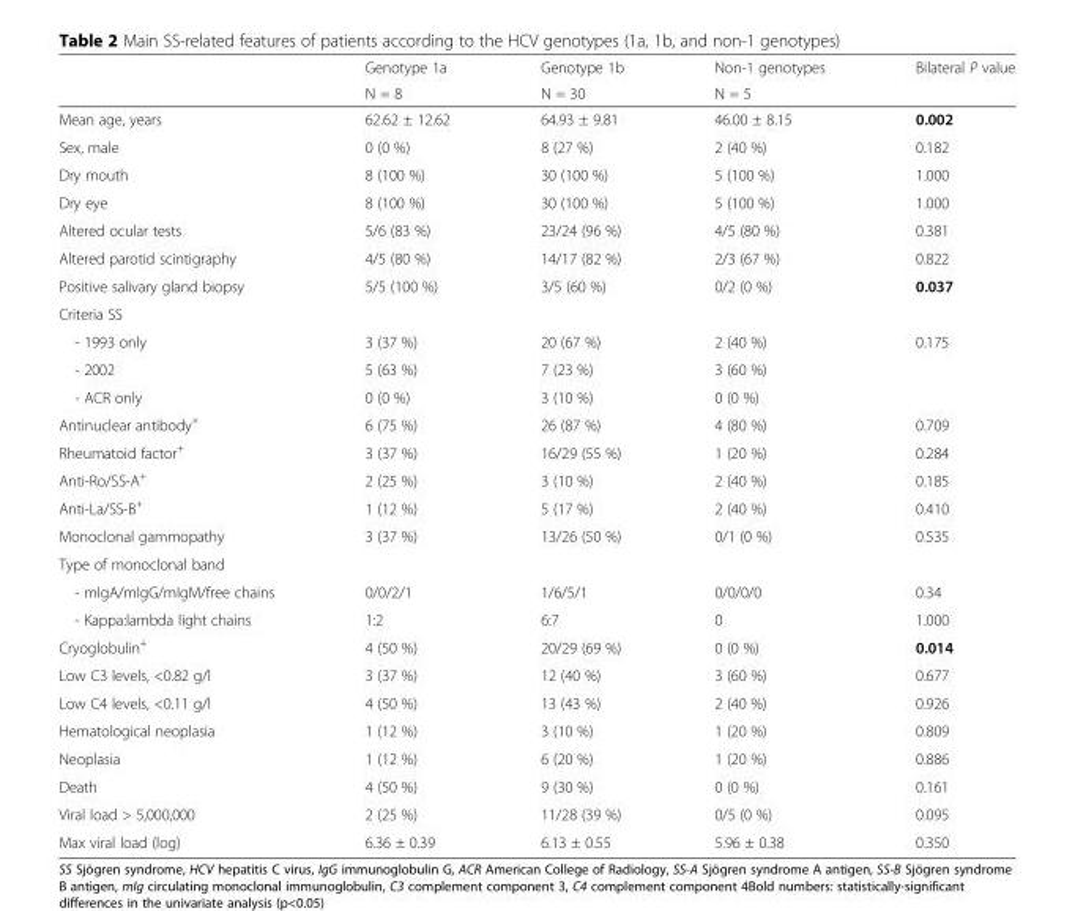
<table><thead><tr><td rowspan="2"></td><td rowspan="2">Genotype 1a N = 8</td><td rowspan="2">Genotype 1b N = 30</td><td rowspan="2">Non-1 genotypes N = 5</td><td rowspan="2">Bilateral P value</td></tr><tr></tr></thead><tbody><tr><td>Mean age, years</td><td>62.62 ± 12.62</td><td>64.93 ± 9.81</td><td>46.00 ± 8.15</td><td>0.002</td></tr><tr><td>Sex, male</td><td>0 (0 %)</td><td>8 (27 %)</td><td>2 (40 %)</td><td>0.182</td></tr><tr><td>Dry mouth</td><td>8 (100 %)</td><td>30 (100 %)</td><td>5 (100 %)</td><td>1.000</td></tr><tr><td>Dry eye</td><td>8 (100 %)</td><td>30 (100 %)</td><td>5 (100 %)</td><td>1.000</td></tr><tr><td>Altered ocular tests</td><td>5/6 (83 %)</td><td>23/24 (96 %)</td><td>4/5 (80 %)</td><td>0.381</td></tr><tr><td>Altered parotid scintigraphy</td><td>4/5 (80 %)</td><td>14/17 (82 %)</td><td>2/3 (67 %)</td><td>0.822</td></tr><tr><td>Positive salivary gland biopsy</td><td>5/5 (100 %)</td><td>3/5 (60 %)</td><td>0/2 (0 %)</td><td>0.037</td></tr><tr><td colspan="5">Criteria SS</td></tr><tr><td>- 1993 only</td><td>3 (37 %)</td><td>20 (67 %)</td><td>2 (40 %)</td><td rowspan="3">0.175</td></tr><tr><td>- 2002</td><td>5 (63 %)</td><td>7 (23 %)</td><td>3 (60 %)</td></tr><tr><td>- ACR only</td><td>0 (0 %)</td><td>3 (10 %)</td><td>0 (0 %)</td></tr><tr><td>Antinuclear antibody<sup>+</sup></td><td>6 (75 %)</td><td>26 (87 %)</td><td>4 (80 %)</td><td>0.709</td></tr><tr><td>Rheumatoid factor<sup>+</sup></td><td>3 (37 %)</td><td>16/29 (55 %)</td><td>1 (20 %)</td><td>0.284</td></tr><tr><td>Anti-Ro/SS-A<sup>+</sup></td><td>2 (25 %)</td><td>3 (10 %)</td><td>2 (40 %)</td><td>0.185</td></tr><tr><td>Anti-La/SS-B<sup>+</sup></td><td>1 (12 %)</td><td>5 (17 %)</td><td>2 (40 %)</td><td>0.410</td></tr><tr><td>Monoclonal gammopathy</td><td>3 (37 %)</td><td>13/26 (50 %)</td><td>0/1 (0 %)</td><td>0.535</td></tr><tr><td colspan="5">Type of monoclonal band</td></tr><tr><td>- mIgA/mIgG/mIgM/free chains</td><td>0/0/2/1</td><td>1/6/5/1</td><td>0/0/0/0</td><td>0.34</td></tr><tr><td>- Kappa:lambda light chains</td><td>1:2</td><td>6:7</td><td>0</td><td>1.000</td></tr><tr><td>Cryoglobulin<sup>+</sup></td><td>4 (50 %)</td><td>20/29 (69 %)</td><td>0 (0 %)</td><td>0.014</td></tr><tr><td>Low C3 levels, &lt;0.82 g/l</td><td>3 (37 %)</td><td>12 (40 %)</td><td>3 (60 %)</td><td>0.677</td></tr><tr><td>Low C4 levels, &lt;0.11 g/l</td><td>4 (50 %)</td><td>13 (43 %)</td><td>2 (40 %)</td><td>0.926</td></tr><tr><td>Hematological neoplasia</td><td>1 (12 %)</td><td>3 (10 %)</td><td>1 (20 %)</td><td>0.809</td></tr><tr><td>Neoplasia</td><td>1 (12 %)</td><td>6 (20 %)</td><td>1 (20 %)</td><td>0.886</td></tr><tr><td>Death</td><td>4 (50 %)</td><td>9 (30 %)</td><td>0 (0 %)</td><td>0.161</td></tr><tr><td>Viral load &gt; 5,000,000</td><td>2 (25 %)</td><td>11/28 (39 %)</td><td>0/5 (0 %)</td><td>0.095</td></tr><tr><td>Max viral load (log)</td><td>6.36 ± 0.39</td><td>6.13 ± 0.55</td><td>5.96 ± 0.38</td><td>0.350</td></tr></tbody></table>